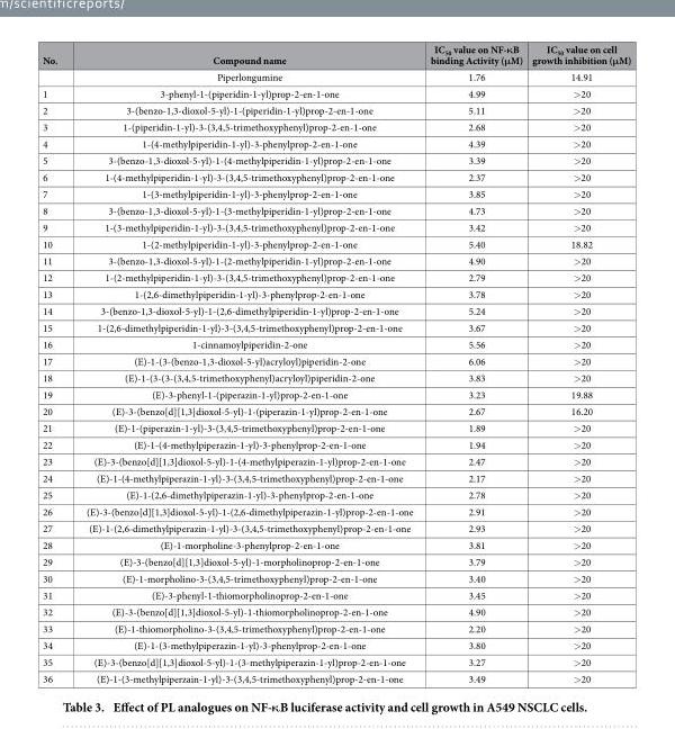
<table><thead><tr><td>No.</td><td>Compound name</td><td>IC50 value on NF-κB binding Activity (μM)</td><td>IC50 value on cell growth inhibition (μM)</td></tr></thead><tbody><tr><td></td><td>Piperlongumine</td><td>1.76</td><td>14.91</td></tr><tr><td>1</td><td>3-phenyl-1-(piperidin-1-yl)prop-2-en-1-one</td><td>4.99</td><td>&gt;20</td></tr><tr><td>2</td><td>3-(benzo-1,3-dioxol-5-yl)-1-(piperidin-1-yl)prop-2-en-1-one</td><td>5.11</td><td>&gt;20</td></tr><tr><td>3</td><td>1-(piperidin-1-yl)-3-(3,4,5-trimethoxyphenyl)prop-2-en-1-one</td><td>2.68</td><td>&gt;20</td></tr><tr><td>4</td><td>1-(4-methylpiperidin-1-yl)-3-phenylprop-2-en-1-one</td><td>4.39</td><td>&gt;20</td></tr><tr><td>5</td><td>3-(benzo-1,3-dioxol-5-yl)-1-(4-methylpiperidin-1-yl)prop-2-en-1-one</td><td>3.39</td><td>&gt;20</td></tr><tr><td>6</td><td>1-(4-methylpiperidin-1-yl)-3-(3,4,5-trimethoxyphenyl)prop-2-en-1-one</td><td>2.37</td><td>&gt;20</td></tr><tr><td>7</td><td>1-(3-methylpiperidin-1-yl)-3-phenylprop-2-en-1-one</td><td>3.85</td><td>&gt;20</td></tr><tr><td>8</td><td>3-(benzo-1,3-dioxol-5-yl)-1-(3-methylpiperidin-1-yl)prop-2-en-1-one</td><td>4.73</td><td>&gt;20</td></tr><tr><td>9</td><td>1-(3-methylpiperidin-1-yl)-3-(3,4,5-trimethoxyphenyl)prop-2-en-1-one</td><td>3.42</td><td>&gt;20</td></tr><tr><td>10</td><td>1-(2-methylpiperidin-1-yl)-3-phenylprop-2-en-1-one</td><td>5.40</td><td>18.82</td></tr><tr><td>11</td><td>3-(benzo-1,3-dioxol-5-yl)-1-(2-methylpiperidin-1-yl)prop-2-en-1-one</td><td>4.90</td><td>&gt;20</td></tr><tr><td>12</td><td>1-(2-methylpiperidin-1-yl)-3-(3,4,5-trimethoxyphenyl)prop-2-en-1-one</td><td>2.79</td><td>&gt;20</td></tr><tr><td>13</td><td>1-(2,6-dimethylpiperidin-1-yl)-3-phenylprop-2-en-1-one</td><td>3.78</td><td>&gt;20</td></tr><tr><td>14</td><td>3-(benzo-1,3-dioxol-5-yl)-1-(2,6-dimethylpiperidin-1-yl)prop-2-en-1-one</td><td>5.24</td><td>&gt;20</td></tr><tr><td>15</td><td>1-(2,6-dimethylpiperidin-1-yl)-3-(3,4,5-trimethoxyphenyl)prop-2-en-1-one</td><td>3.67</td><td>&gt;20</td></tr><tr><td>16</td><td>1-cinnamoylpiperidin-2-one</td><td>5.56</td><td>&gt;20</td></tr><tr><td>17</td><td>(E)-1-(3-(benzo-1,3-dioxol-5-yl)acryloyl)piperidin-2-one</td><td>6.06</td><td>&gt;20</td></tr><tr><td>18</td><td>(E)-1-(3-(3-(3,4,5-trimethoxyphenyl)acryloyl)piperidin-2-one</td><td>3.83</td><td>&gt;20</td></tr><tr><td>19</td><td>(E)-3-phenyl-1-(piperazin-1-yl)prop-2-en-1-one</td><td>3.23</td><td>19.88</td></tr><tr><td>20</td><td>(E)-3-(benzo[d][1,3]dioxol-5-yl)-1-(piperazin-1-yl)prop-2-en-1-one</td><td>2.67</td><td>16.20</td></tr><tr><td>21</td><td>(E)-1-(piperazin-1-yl)-3-(3,4,5-trimethoxyphenyl)prop-2-en-1-one</td><td>1.89</td><td>&gt;20</td></tr><tr><td>22</td><td>(E)-1-(4-methylpiperazin-1-yl)-3-phenylprop-2-en-1-one</td><td>1.94</td><td>&gt;20</td></tr><tr><td>23</td><td>(E)-3-(benzo[d][1,3]dioxol-5-yl)-1-(4-methylpiperazin-1-yl)prop-2-en-1-one</td><td>2.47</td><td>&gt;20</td></tr><tr><td>24</td><td>(E)-1-(4-methylpiperazin-1-yl)-3-(3,4,5-trimethoxyphenyl)prop-2-en-1-one</td><td>2.17</td><td>&gt;20</td></tr><tr><td>25</td><td>(E)-1-(2,6-dimethylpiperazin-1-yl)-3-phenylprop-2-en-1-one</td><td>2.78</td><td>&gt;20</td></tr><tr><td>26</td><td>(E)-3-(benzo[d][1,3]dioxol-5-yl)-1-(2,6-dimethylpiperazin-1-yl)prop-2-en-1-one</td><td>2.91</td><td>&gt;20</td></tr><tr><td>27</td><td>(E)-1-(2,6-dimethylpiperazin-1-yl)-3-(3,4,5-trimethoxyphenyl)prop-2-en-1-one</td><td>2.93</td><td>&gt;20</td></tr><tr><td>28</td><td>(E)-1-morpholine-3-phenylprop-2-en-1-one</td><td>3.81</td><td>&gt;20</td></tr><tr><td>29</td><td>(E)-3-(benzo[d][1,3]dioxol-5-yl)-1-morpholinoprop-2-en-1-one</td><td>3.79</td><td>&gt;20</td></tr><tr><td>30</td><td>(E)-1-morpholino-3-(3,4,5-trimethoxyphenyl)prop-2-en-1-one</td><td>3.40</td><td>&gt;20</td></tr><tr><td>31</td><td>(E)-3-phenyl-1-thiomorpholinoprop-2-en-1-one</td><td>3.45</td><td>&gt;20</td></tr><tr><td>32</td><td>(E)-3-(benzo[d][1,3]dioxol-5-yl)-1-thiomorpholinoprop-2-en-1-one</td><td>4.90</td><td>&gt;20</td></tr><tr><td>33</td><td>(E)-1-thiomorpholino-3-(3,4,5-trimethoxyphenyl)prop-2-en-1-one</td><td>2.20</td><td>&gt;20</td></tr><tr><td>34</td><td>(E)-1-(3-methylpiperazin-1-yl)-3-phenylprop-2-en-1-one</td><td>3.80</td><td>&gt;20</td></tr><tr><td>35</td><td>(E)-3-(benzo[d][1,3]dioxol-5-yl)-1-(3-methylpiperazin-1-yl)prop-2-en-1-one</td><td>3.27</td><td>&gt;20</td></tr><tr><td>36</td><td>(E)-1-(3-methylpiperzain-1-yl)-3-(3,4,5-trimethoxyphenyl)prop-2-en-1-one</td><td>3.49</td><td>&gt;20</td></tr></tbody></table>